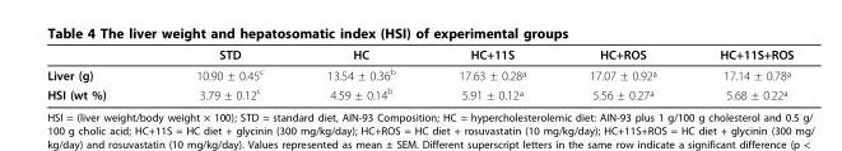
<table><thead><tr><td></td><td>STD</td><td>HC</td><td>HC+11S</td><td>HC+ROS</td><td>HC+11S+ROS</td></tr></thead><tbody><tr><td>Liver (g)</td><td>10.90 ± 0.45<sup>c</sup></td><td>13.54 ± 0.36<sup>b</sup></td><td>17.63 ± 0.28ª</td><td>17.07 ± 0.92ª</td><td>17.14 ± 0.78ª</td></tr><tr><td>HSI (wt %)</td><td>3.79 ± 0.12<sup>c</sup></td><td>4.59 ± 0.14<sup>b</sup></td><td>5.91 ± 0.12ª</td><td>5.56 ± 0.27ª</td><td>5.68 ± 0.22ª</td></tr></tbody></table>